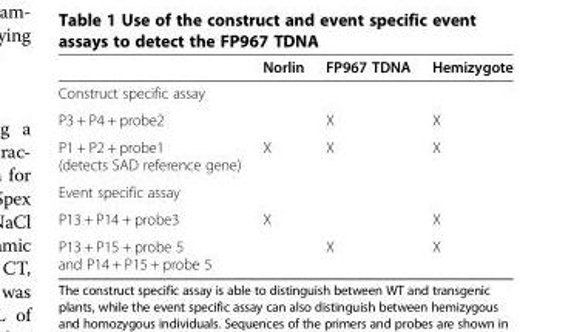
<table><thead><tr><td></td><td>Norlin</td><td>FP967 TDNA</td><td>Hemizygote</td></tr></thead><tbody><tr><td colspan="4">Construct specific assay</td></tr><tr><td>P3 + P4 + probe2</td><td></td><td>X</td><td>X</td></tr><tr><td>P1 + P2 + probe1 (detects SAD reference gene)</td><td>X</td><td>X</td><td>X</td></tr><tr><td colspan="4">Event specific assay</td></tr><tr><td>P13 + P14 + probe3</td><td>X</td><td></td><td>X</td></tr><tr><td>P13 + P15 + probe 5 and P14 + P15 + probe 5</td><td></td><td>X</td><td>X</td></tr></tbody></table>